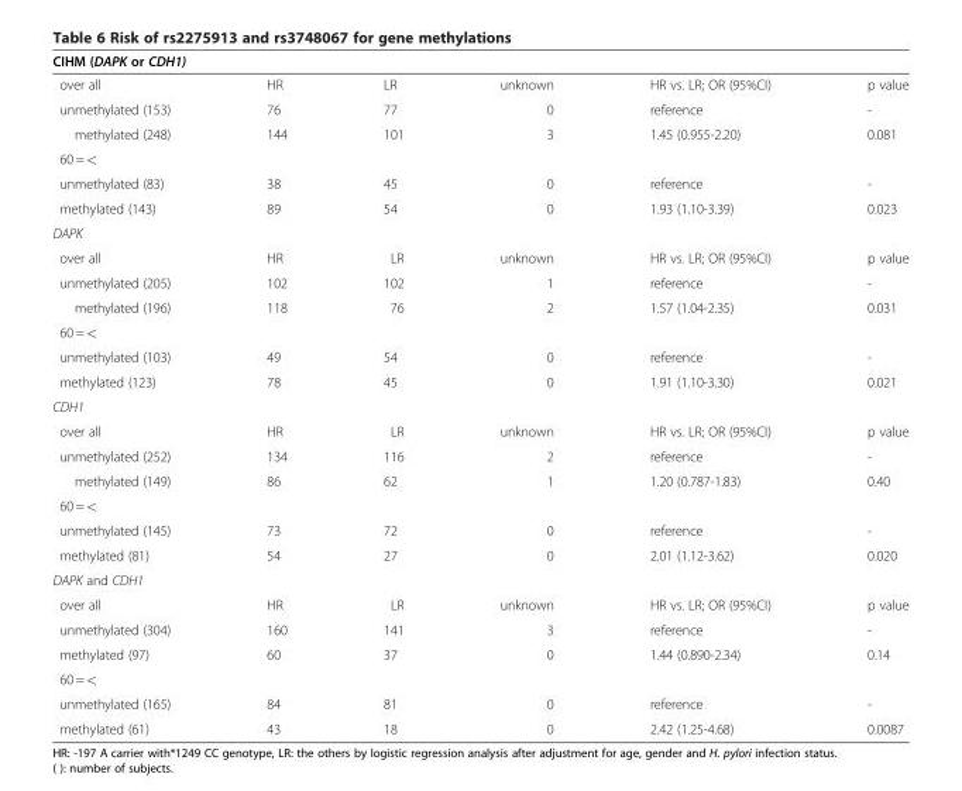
<table><thead><tr><td colspan="6">CIHM (DAPK or CDH1)</td></tr><tr><td>over all</td><td>HR</td><td>LR</td><td>unknown</td><td>HR vs. LR; OR (95%CI)</td><td>p value</td></tr></thead><tbody><tr><td>unmethylated (153)</td><td>76</td><td>77</td><td>0</td><td>reference</td><td>-</td></tr><tr><td>methylated (248)</td><td>144</td><td>101</td><td>3</td><td>1.45 (0.955-2.20)</td><td>0.081</td></tr><tr><td colspan="6">60 = &lt;</td></tr><tr><td>unmethylated (83)</td><td>38</td><td>45</td><td>0</td><td>reference</td><td>-</td></tr><tr><td>methylated (143)</td><td>89</td><td>54</td><td>0</td><td>1.93 (1.10-3.39)</td><td>0.023</td></tr><tr><td colspan="6">DAPK</td></tr><tr><td>over all</td><td>HR</td><td>LR</td><td>unknown</td><td>HR vs. LR; OR (95%CI)</td><td>p value</td></tr><tr><td>unmethylated (205)</td><td>102</td><td>102</td><td>1</td><td>reference</td><td>-</td></tr><tr><td>methylated (196)</td><td>118</td><td>76</td><td>2</td><td>1.57 (1.04-2.35)</td><td>0.031</td></tr><tr><td colspan="6">60 = &lt;</td></tr><tr><td>unmethylated (103)</td><td>49</td><td>54</td><td>0</td><td>reference</td><td>-</td></tr><tr><td>methylated (123)</td><td>78</td><td>45</td><td>0</td><td>1.91 (1.10-3.30)</td><td>0.021</td></tr><tr><td colspan="6">CDH1</td></tr><tr><td>over all</td><td>HR</td><td>LR</td><td>unknown</td><td>HR vs. LR; OR (95%CI)</td><td>p value</td></tr><tr><td>unmethylated (252)</td><td>134</td><td>116</td><td>2</td><td>reference</td><td>-</td></tr><tr><td>methylated (149)</td><td>86</td><td>62</td><td>1</td><td>1.20 (0.787-1.83)</td><td>0.40</td></tr><tr><td colspan="6">60 = &lt;</td></tr><tr><td>unmethylated (145)</td><td>73</td><td>72</td><td>0</td><td>reference</td><td>-</td></tr><tr><td>methylated (81)</td><td>54</td><td>27</td><td>0</td><td>2.01 (1.12-3.62)</td><td>0.020</td></tr><tr><td colspan="6">DAPK and CDH1</td></tr><tr><td>over all</td><td>HR</td><td>LR</td><td>unknown</td><td>HR vs. LR; OR (95%CI)</td><td>p value</td></tr><tr><td>unmethylated (304)</td><td>160</td><td>141</td><td>3</td><td>reference</td><td>-</td></tr><tr><td>methylated (97)</td><td>60</td><td>37</td><td>0</td><td>1.44 (0.890-2.34)</td><td>0.14</td></tr><tr><td colspan="6">60 = &lt;</td></tr><tr><td>unmethylated (165)</td><td>84</td><td>81</td><td>0</td><td>reference</td><td>-</td></tr><tr><td>methylated (61)</td><td>43</td><td>18</td><td>0</td><td>2.42 (1.25-4.68)</td><td>0.0087</td></tr></tbody></table>